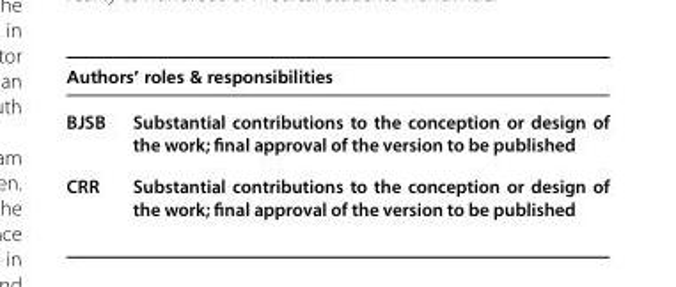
<table><thead><tr><td colspan="2">Authors’ roles &amp; responsibilities</td></tr><tr><td>BJSB</td><td>Substantial contributions to the conception or design of the work; final approval of the version to be published</td></tr></thead><tbody><tr><td>CRR</td><td>Substantial contributions to the conception or design of the work; final approval of the version to be published</td></tr></tbody></table>